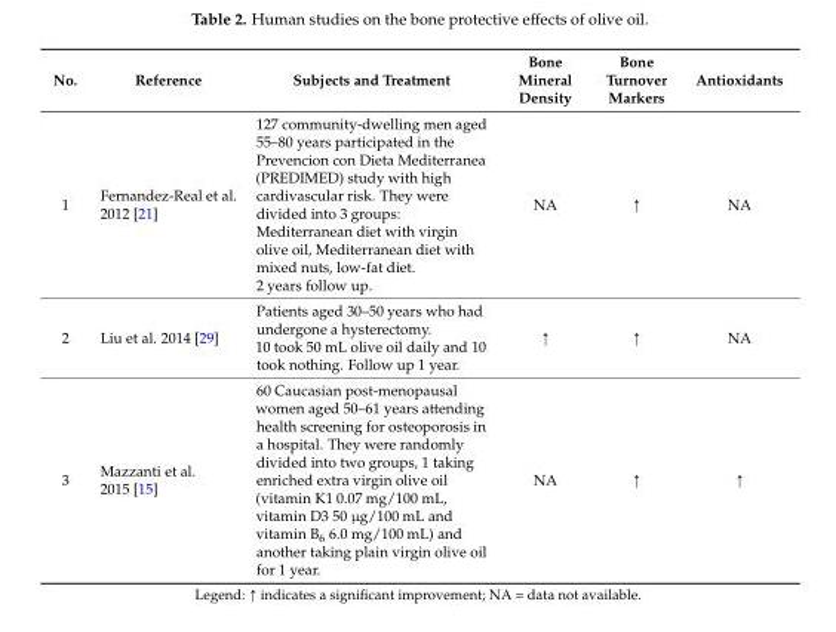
<table><thead><tr><td>No.</td><td>Reference</td><td>Subjects and Treatment</td><td>Bone Mineral Density</td><td>Bone Turnover Markers</td><td>Antioxidants</td></tr></thead><tbody><tr><td>1</td><td>Fernandez-Real et al. 2012 [21]</td><td>127 community-dwelling men aged 55–80 years participated in the Prevencion con Dieta Mediterranea (PREDIMED) study with high cardivascular risk. They were divided into 3 groups: Mediterranean diet with virgin olive oil, Mediterranean diet with mixed nuts, low-fat diet. 2 years follow up.</td><td>NA</td><td>↑</td><td>NA</td></tr><tr><td>2</td><td>Liu et al. 2014 [29]</td><td>Patients aged 30–50 years who had undergone a hysterectomy. 10 took 50 mL olive oil daily and 10 took nothing. Follow up 1 year.</td><td>↑</td><td>↑</td><td>NA</td></tr><tr><td>3</td><td>Mazzanti et al. 2015 [15]</td><td>60 Caucasian post-menopausal women aged 50–61 years attending health screening for osteoporosis in a hospital. They were randomly divided into two groups, 1 taking enriched extra virgin olive oil (vitamin K1 0.07 mg/100 mL, vitamin D3 50 µg/100 mL and vitamin B<sub>6</sub> 6.0 mg/100 mL) and another taking plain virgin olive oil for 1 year.</td><td>NA</td><td>↑</td><td>↑</td></tr></tbody></table>